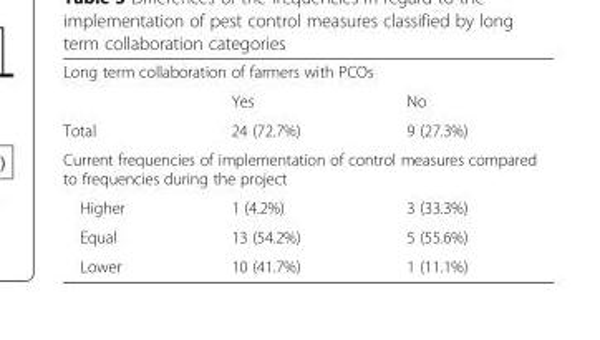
<table><tbody><tr><td colspan="3">Long term collaboration of farmers with PCOs</td></tr><tr><td></td><td>Yes</td><td>No</td></tr><tr><td>Total</td><td>24 (72.7%)</td><td>9 (27.3%)</td></tr><tr><td colspan="3">Current frequencies of implementation of control measures compared to frequencies during the project</td></tr><tr><td>Higher</td><td>1 (4.2%)</td><td>3 (33.3%)</td></tr><tr><td>Equal</td><td>13 (54.2%)</td><td>5 (55.6%)</td></tr><tr><td>Lower</td><td>10 (41.7%)</td><td>1 (11.1%)</td></tr></tbody></table>